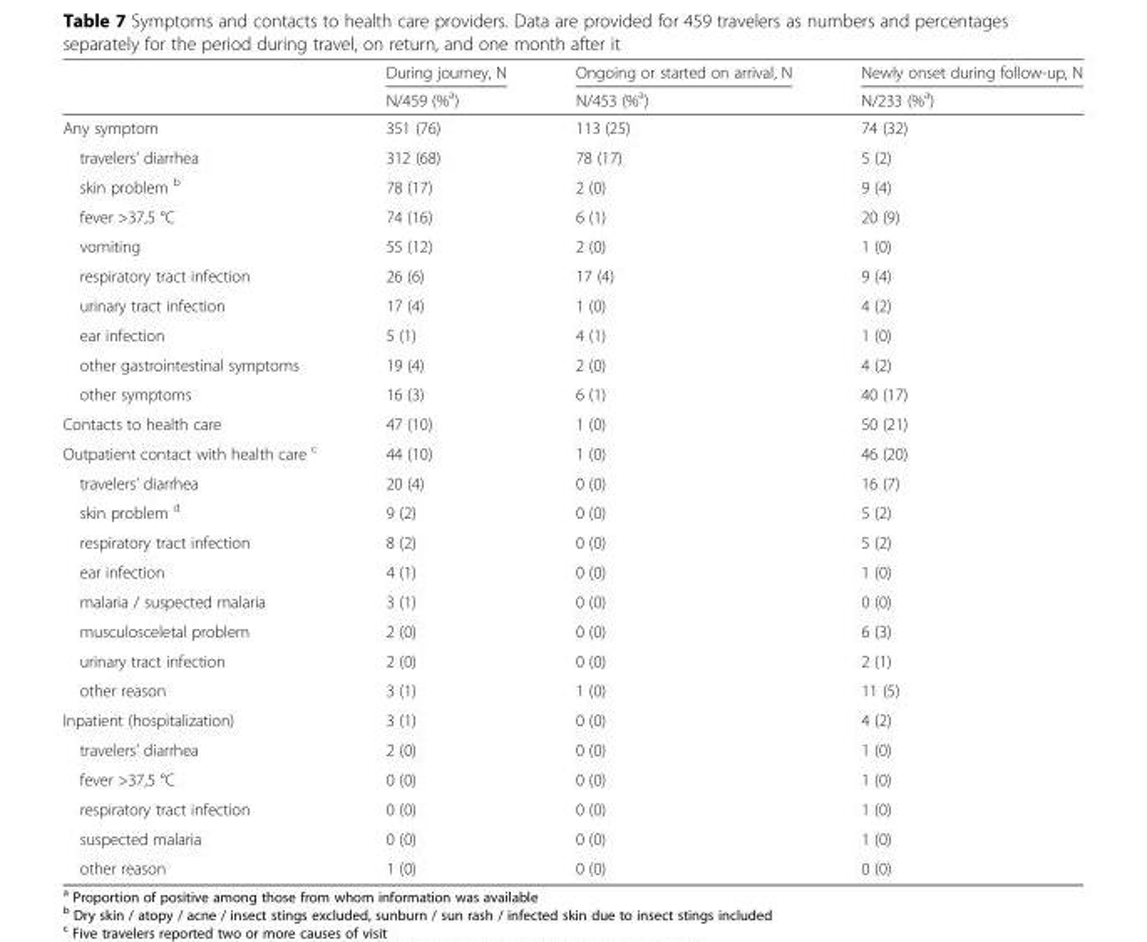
<table><thead><tr><td rowspan="2"></td><td rowspan="2">During journey, N N/459 (%<sup>a</sup>)</td><td rowspan="2">Ongoing or started on arrival, N N/453 (%<sup>a</sup>)</td><td rowspan="2">Newly onset during follow-up, N N/233 (%<sup>a</sup>)</td></tr><tr></tr></thead><tbody><tr><td>Any symptom</td><td>351 (76)</td><td>113 (25)</td><td>74 (32)</td></tr><tr><td>travelers&#x27; diarrhea</td><td>312 (68)</td><td>78 (17)</td><td>5 (2)</td></tr><tr><td>skin problem <sup>b</sup></td><td>78 (17)</td><td>2 (0)</td><td>9 (4)</td></tr><tr><td>fever &gt;37,5 °C</td><td>74 (16)</td><td>6 (1)</td><td>20 (9)</td></tr><tr><td>vomiting</td><td>55 (12)</td><td>2 (0)</td><td>1 (0)</td></tr><tr><td>respiratory tract infection</td><td>26 (6)</td><td>17 (4)</td><td>9 (4)</td></tr><tr><td>urinary tract infection</td><td>17 (4)</td><td>1 (0)</td><td>4 (2)</td></tr><tr><td>ear infection</td><td>5 (1)</td><td>4 (1)</td><td>1 (0)</td></tr><tr><td>other gastrointestinal symptoms</td><td>19 (4)</td><td>2 (0)</td><td>4 (2)</td></tr><tr><td>other symptoms</td><td>16 (3)</td><td>6 (1)</td><td>40 (17)</td></tr><tr><td>Contacts to health care</td><td>47 (10)</td><td>1 (0)</td><td>50 (21)</td></tr><tr><td>Outpatient contact with health care <sup>c</sup></td><td>44 (10)</td><td>1 (0)</td><td>46 (20)</td></tr><tr><td>travelers’ diarrhea</td><td>20 (4)</td><td>0 (0)</td><td>16 (7)</td></tr><tr><td>skin problem <sup>d</sup></td><td>9 (2)</td><td>0 (0)</td><td>5 (2)</td></tr><tr><td>respiratory tract infection</td><td>8 (2)</td><td>0 (0)</td><td>5 (2)</td></tr><tr><td>ear infection</td><td>4 (1)</td><td>0 (0)</td><td>1 (0)</td></tr><tr><td>malaria / suspected malaria</td><td>3 (1)</td><td>0 (0)</td><td>0 (0)</td></tr><tr><td>musculosceletal problem</td><td>2 (0)</td><td>0 (0)</td><td>6 (3)</td></tr><tr><td>urinary tract infection</td><td>2 (0)</td><td>0 (0)</td><td>2 (1)</td></tr><tr><td>other reason</td><td>3 (1)</td><td>1 (0)</td><td>11 (5)</td></tr><tr><td>Inpatient (hospitalization)</td><td>3 (1)</td><td>0 (0)</td><td>4 (2)</td></tr><tr><td>travelers’ diarrhea</td><td>2 (0)</td><td>0 (0)</td><td>1 (0)</td></tr><tr><td>fever &gt;37,5 °C</td><td>0 (0)</td><td>0 (0)</td><td>1 (0)</td></tr><tr><td>respiratory tract infection</td><td>0 (0)</td><td>0 (0)</td><td>1 (0)</td></tr><tr><td>suspected malaria</td><td>0 (0)</td><td>0 (0)</td><td>1 (0)</td></tr><tr><td>other reason</td><td>1 (0)</td><td>0 (0)</td><td>0 (0)</td></tr></tbody></table>